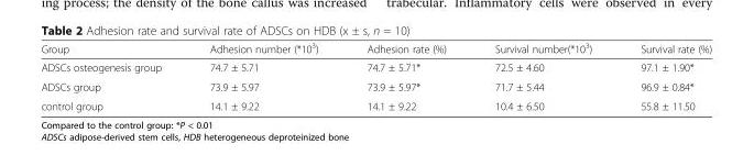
<table><thead><tr><td>Group</td><td>Adhesion number (*10<sup>3</sup>)</td><td>Adhesion rate (%)</td><td>Survival number(*10<sup>3</sup>)</td><td>Survival rate (%)</td></tr></thead><tbody><tr><td>ADSCs osteogenesis group</td><td>74.7 ± 5.71</td><td>74.7 ± 5.71*</td><td>72.5 ± 4.60</td><td>97.1 ± 1.90*</td></tr><tr><td>ADSCs group</td><td>73.9 ± 5.97</td><td>73.9 ± 5.97*</td><td>71.7 ± 5.44</td><td>96.9 ± 0.84*</td></tr><tr><td>control group</td><td>14.1 ± 9.22</td><td>14.1 ± 9.22</td><td>10.4 ± 6.50</td><td>55.8 ± 11.50</td></tr></tbody></table>